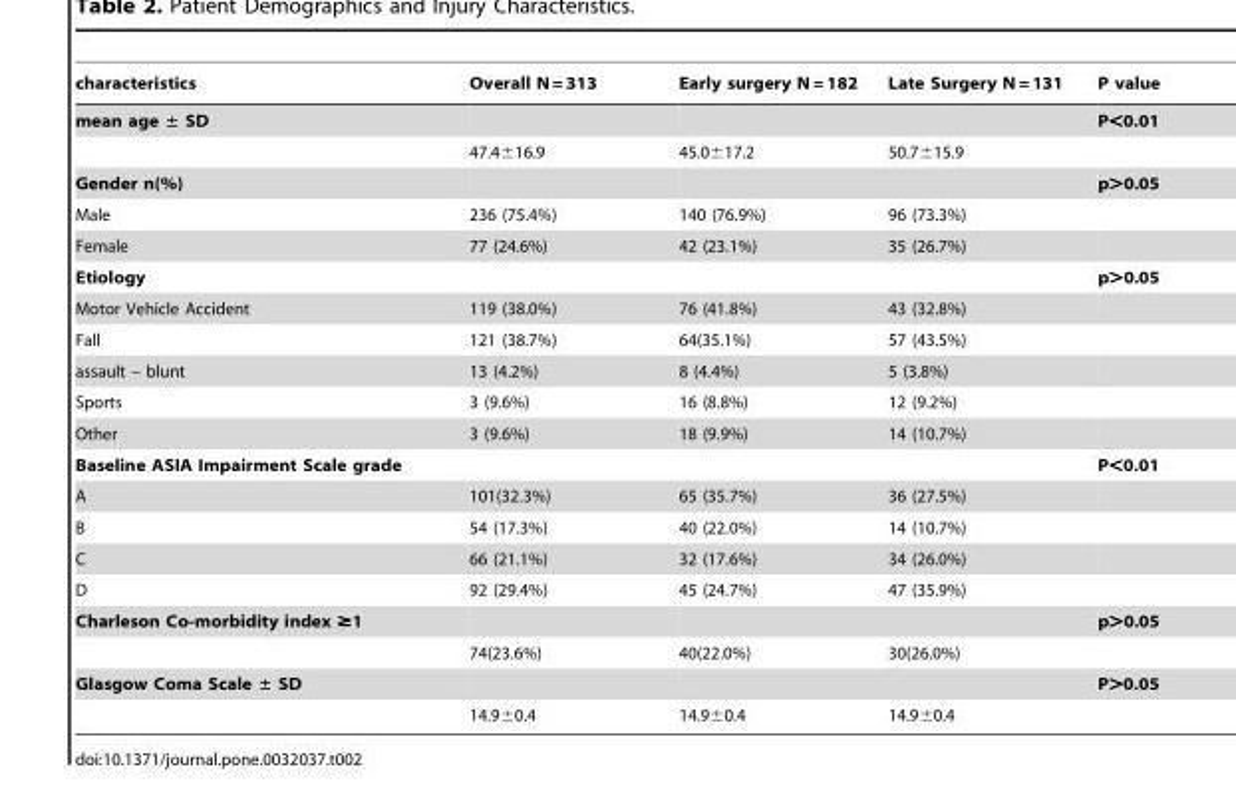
<table><thead><tr><td>characteristics</td><td>Overall N = 313</td><td>Early surgery N = 182</td><td>Late Surgery N = 131</td><td>P value</td></tr></thead><tbody><tr><td rowspan="2">mean age ± SD</td><td></td><td></td><td></td><td>P&lt;0.01</td></tr><tr><td>47.4±16.9</td><td>45.0±17.2</td><td>50.7±15.9</td><td></td></tr><tr><td>Gender n(%)</td><td></td><td></td><td></td><td>p&gt;0.05</td></tr><tr><td>Male</td><td>236 (75.4%)</td><td>140 (76.9%)</td><td>96 (73.3%)</td><td></td></tr><tr><td>Female</td><td>77 (24.6%)</td><td>42 (23.1%)</td><td>35 (26.7%)</td><td></td></tr><tr><td>Etiology</td><td></td><td></td><td></td><td>p&gt;0.05</td></tr><tr><td>Motor Vehicle Accident</td><td>119 (38.0%)</td><td>76 (41.8%)</td><td>43 (32.8%)</td><td></td></tr><tr><td>Fall</td><td>121 (38.7%)</td><td>64(35.1%)</td><td>57 (43.5%)</td><td></td></tr><tr><td>assault – blunt</td><td>13 (4.2%)</td><td>8 (4.4%)</td><td>5 (3.8%)</td><td></td></tr><tr><td>Sports</td><td>3 (9.6%)</td><td>16 (8.8%)</td><td>12 (9.2%)</td><td></td></tr><tr><td>Other</td><td>3 (9.6%)</td><td>18 (9.9%)</td><td>14 (10.7%)</td><td></td></tr><tr><td>Baseline ASIA Impairment Scale grade</td><td></td><td></td><td></td><td>P&lt;0.01</td></tr><tr><td>A</td><td>101(32.3%)</td><td>65 (35.7%)</td><td>36 (27.5%)</td><td></td></tr><tr><td>B</td><td>54 (17.3%)</td><td>40 (22.0%)</td><td>14 (10.7%)</td><td></td></tr><tr><td>C</td><td>66 (21.1%)</td><td>32 (17.6%)</td><td>34 (26.0%)</td><td></td></tr><tr><td>D</td><td>92 (29.4%)</td><td>45 (24.7%)</td><td>47 (35.9%)</td><td></td></tr><tr><td rowspan="2">Charleson Co-morbidity index ≥1</td><td></td><td></td><td></td><td>p&gt;0.05</td></tr><tr><td>74(23.6%)</td><td>40(22.0%)</td><td>30(26.0%)</td><td></td></tr><tr><td rowspan="2">Glasgow Coma Scale ± SD</td><td></td><td></td><td></td><td>P&gt;0.05</td></tr><tr><td>14.9±0.4</td><td>14.9±0.4</td><td>14.9±0.4</td><td></td></tr></tbody></table>